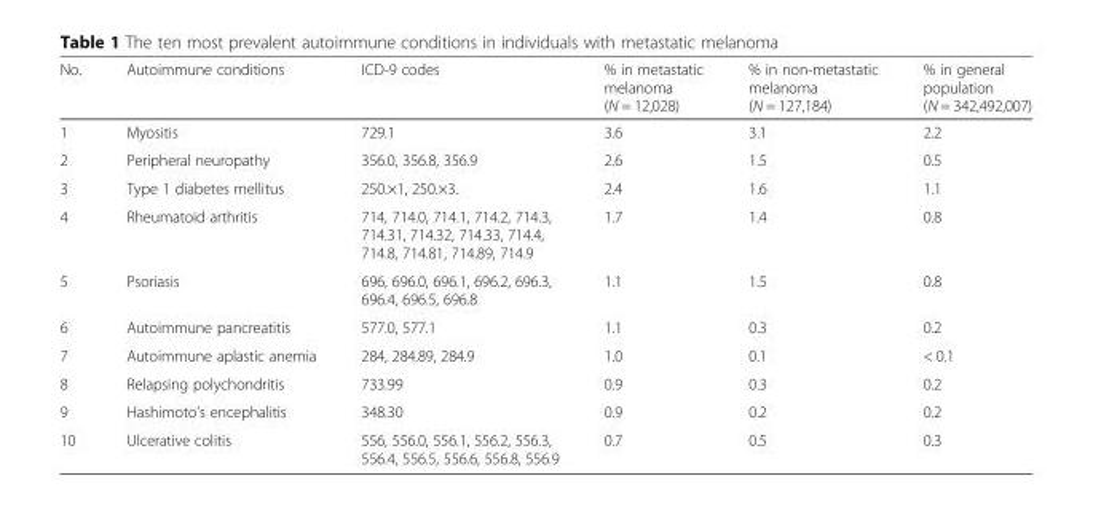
<table><thead><tr><td>No.</td><td>Autoimmune conditions</td><td>ICD-9 codes</td><td>% in metastatic melanoma (N = 12,028)</td><td>% in non-metastatic melanoma (N = 127,184)</td><td>% in general population (N = 342,492,007)</td></tr></thead><tbody><tr><td>1</td><td>Myositis</td><td>729.1</td><td>3.6</td><td>3.1</td><td>2.2</td></tr><tr><td>2</td><td>Peripheral neuropathy</td><td>356.0, 356.8, 356.9</td><td>2.6</td><td>1.5</td><td>0.5</td></tr><tr><td>3</td><td>Type 1 diabetes mellitus</td><td>250.×1, 250.×3.</td><td>2.4</td><td>1.6</td><td>1.1</td></tr><tr><td>4</td><td>Rheumatoid arthritis</td><td>714, 714.0, 714.1, 714.2, 714.3, 714.31, 714.32, 714.33, 714.4, 714.8, 714.81, 714.89, 714.9</td><td>1.7</td><td>1.4</td><td>0.8</td></tr><tr><td>5</td><td>Psoriasis</td><td>696, 696.0, 696.1, 696.2, 696.3, 696.4, 696.5, 696.8</td><td>1.1</td><td>1.5</td><td>0.8</td></tr><tr><td>6</td><td>Autoimmune pancreatitis</td><td>577.0, 577.1</td><td>1.1</td><td>0.3</td><td>0.2</td></tr><tr><td>7</td><td>Autoimmune aplastic anemia</td><td>284, 284.89, 284.9</td><td>1.0</td><td>0.1</td><td>&lt; 0.1</td></tr><tr><td>8</td><td>Relapsing polychondritis</td><td>733.99</td><td>0.9</td><td>0.3</td><td>0.2</td></tr><tr><td>9</td><td>Hashimoto’s encephalitis</td><td>348.30</td><td>0.9</td><td>0.2</td><td>0.2</td></tr><tr><td>10</td><td>Ulcerative colitis</td><td>556, 556.0, 556.1, 556.2, 556.3, 556.4, 556.5, 556.6, 556.8, 556.9</td><td>0.7</td><td>0.5</td><td>0.3</td></tr></tbody></table>